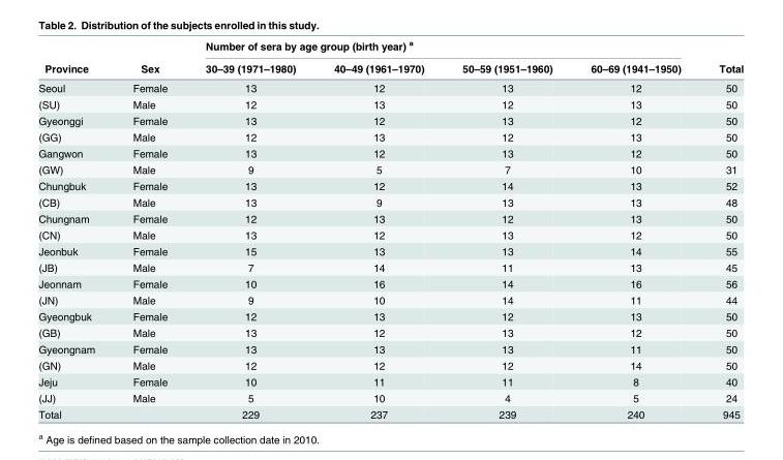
<table><thead><tr><td rowspan="2">Province</td><td rowspan="2">Sex</td><td colspan="4">Number of sera by age group (birth year) <sup>a</sup></td><td rowspan="2">Total</td></tr><tr><td>30–39 (1971–1980)</td><td>40–49 (1961–1970)</td><td>50–59 (1951–1960)</td><td>60–69 (1941–1950)</td></tr></thead><tbody><tr><td>Seoul</td><td>Female</td><td>13</td><td>12</td><td>13</td><td>12</td><td>50</td></tr><tr><td>(SU)</td><td>Male</td><td>12</td><td>13</td><td>12</td><td>13</td><td>50</td></tr><tr><td>Gyeonggi</td><td>Female</td><td>13</td><td>12</td><td>13</td><td>12</td><td>50</td></tr><tr><td>(GG)</td><td>Male</td><td>12</td><td>13</td><td>12</td><td>13</td><td>50</td></tr><tr><td>Gangwon</td><td>Female</td><td>13</td><td>12</td><td>13</td><td>12</td><td>50</td></tr><tr><td>(GW)</td><td>Male</td><td>9</td><td>5</td><td>7</td><td>10</td><td>31</td></tr><tr><td>Chungbuk</td><td>Female</td><td>13</td><td>12</td><td>14</td><td>13</td><td>52</td></tr><tr><td>(CB)</td><td>Male</td><td>13</td><td>9</td><td>13</td><td>13</td><td>48</td></tr><tr><td>Chungnam</td><td>Female</td><td>12</td><td>13</td><td>12</td><td>13</td><td>50</td></tr><tr><td>(CN)</td><td>Male</td><td>13</td><td>12</td><td>13</td><td>12</td><td>50</td></tr><tr><td>Jeonbuk</td><td>Female</td><td>15</td><td>13</td><td>13</td><td>14</td><td>55</td></tr><tr><td>(JB)</td><td>Male</td><td>7</td><td>14</td><td>11</td><td>13</td><td>45</td></tr><tr><td>Jeonnam</td><td>Female</td><td>10</td><td>16</td><td>14</td><td>16</td><td>56</td></tr><tr><td>(JN)</td><td>Male</td><td>9</td><td>10</td><td>14</td><td>11</td><td>44</td></tr><tr><td>Gyeongbuk</td><td>Female</td><td>12</td><td>13</td><td>12</td><td>13</td><td>50</td></tr><tr><td>(GB)</td><td>Male</td><td>13</td><td>12</td><td>13</td><td>12</td><td>50</td></tr><tr><td>Gyeongnam</td><td>Female</td><td>13</td><td>13</td><td>13</td><td>11</td><td>50</td></tr><tr><td>(GN)</td><td>Male</td><td>12</td><td>12</td><td>12</td><td>14</td><td>50</td></tr><tr><td>Jeju</td><td>Female</td><td>10</td><td>11</td><td>11</td><td>8</td><td>40</td></tr><tr><td>(JJ)</td><td>Male</td><td>5</td><td>10</td><td>4</td><td>5</td><td>24</td></tr><tr><td>Total</td><td></td><td>229</td><td>237</td><td>239</td><td>240</td><td>945</td></tr></tbody></table>